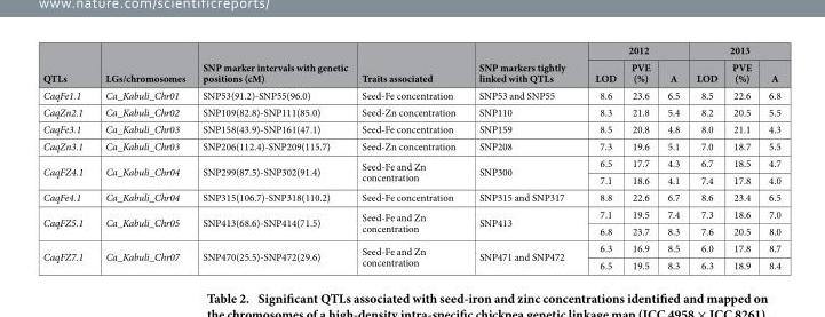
<table><thead><tr><td rowspan="2">QTLs</td><td rowspan="2">LGs/chromosomes</td><td rowspan="2">SNP marker intervals with genetic positions (cM)</td><td rowspan="2">Traits associated</td><td rowspan="2">SNP markers tightly linked with QTLs</td><td colspan="3">2012</td><td colspan="3">2013</td></tr><tr><td>LOD</td><td>PVE (%)</td><td>A</td><td>LOD</td><td>PVE (%)</td><td>A</td></tr></thead><tbody><tr><td>CaqFe1.1</td><td>Ca_Kabuli_Chr01</td><td>SNP53(91.2)-SNP55(96.0)</td><td>Seed-Fe concentration</td><td>SNP53 and SNP55</td><td>8.6</td><td>23.6</td><td>6.5</td><td>8.5</td><td>22.6</td><td>6.8</td></tr><tr><td>CaqZn2.1</td><td>Ca_Kabuli_Chr02</td><td>SNP109(82.8)-SNP111(85.0)</td><td>Seed-Zn concentration</td><td>SNP110</td><td>8.3</td><td>21.8</td><td>5.4</td><td>8.2</td><td>20.5</td><td>5.5</td></tr><tr><td>CaqFe3.1</td><td>Ca_Kabuli_Chr03</td><td>SNP158(43.9)-SNP161(47.1)</td><td>Seed-Fe concentration</td><td>SNP159</td><td>8.5</td><td>20.8</td><td>4.8</td><td>8.0</td><td>21.1</td><td>4.3</td></tr><tr><td>CaqZn3.1</td><td>Ca_Kabuli_Chr03</td><td>SNP206(112.4)-SNP209(115.7)</td><td>Seed-Zn concentration</td><td>SNP208</td><td>7.3</td><td>19.6</td><td>5.1</td><td>7.0</td><td>18.7</td><td>5.5</td></tr><tr><td rowspan="2">CaqFZ4.1</td><td rowspan="2">Ca_Kabuli_Chr04</td><td rowspan="2">SNP299(87.5)-SNP302(91.4)</td><td rowspan="2">Seed-Fe and Zn concentration</td><td rowspan="2">SNP300</td><td>6.5</td><td>17.7</td><td>4.3</td><td>6.7</td><td>18.5</td><td>4.7</td></tr><tr><td>7.1</td><td>18.6</td><td>4.1</td><td>7.4</td><td>17.8</td><td>4.0</td></tr><tr><td>CaqFe4.1</td><td>Ca_Kabuli_Chr04</td><td>SNP315(106.7)-SNP318(110.2)</td><td>Seed-Fe concentration</td><td>SNP315 and SNP317</td><td>8.8</td><td>22.6</td><td>6.7</td><td>8.6</td><td>23.4</td><td>6.5</td></tr><tr><td rowspan="2">CaqFZ5.1</td><td rowspan="2">Ca_Kabuli_Chr05</td><td rowspan="2">SNP413(68.6)-SNP414(71.5)</td><td rowspan="2">Seed-Fe and Zn concentration</td><td rowspan="2">SNP413</td><td>7.1</td><td>19.5</td><td>7.4</td><td>7.3</td><td>18.6</td><td>7.0</td></tr><tr><td>6.8</td><td>23.7</td><td>8.3</td><td>7.6</td><td>20.5</td><td>8.0</td></tr><tr><td rowspan="2">CaqFZ7.1</td><td rowspan="2">Ca_Kabuli_Chr07</td><td rowspan="2">SNP470(25.5)-SNP472(29.6)</td><td rowspan="2">Seed-Fe and Zn concentration</td><td rowspan="2">SNP471 and SNP472</td><td>6.3</td><td>16.9</td><td>8.5</td><td>6.0</td><td>17.8</td><td>8.7</td></tr><tr><td>6.5</td><td>19.5</td><td>8.3</td><td>6.3</td><td>18.9</td><td>8.4</td></tr></tbody></table>